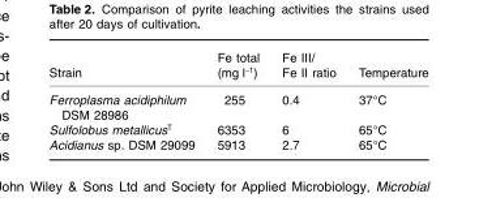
<table><thead><tr><td>Strain</td><td>Fe total (mg l<sup>−1</sup>)</td><td>Fe III/ Fe II ratio</td><td>Temperature</td></tr></thead><tbody><tr><td>Ferroplasma acidiphilum DSM 28986</td><td>255</td><td>0.4</td><td>37°C</td></tr><tr><td>Sulfolobus metallicus<sup>T</sup></td><td>6353</td><td>6</td><td>65°C</td></tr><tr><td>Acidianus sp. DSM 29099</td><td>5913</td><td>2.7</td><td>65°C</td></tr></tbody></table>